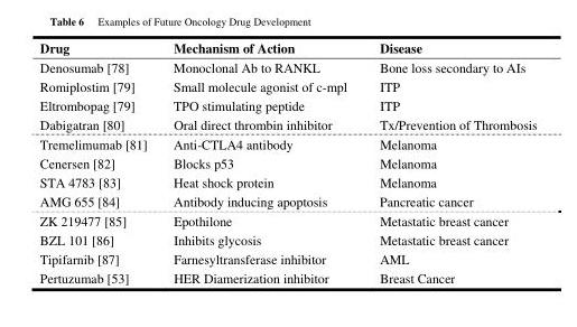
<table><thead><tr><td>Drug</td><td>Mechanism of Action</td><td>Disease</td></tr></thead><tbody><tr><td>Denosumab [78]</td><td>Monoclonal Ab to RANKL</td><td>Bone loss secondary to AIs</td></tr><tr><td>Romiplostim [79]</td><td>Small molecule agonist of c-mpl</td><td>ITP</td></tr><tr><td>Eltrombopag [79]</td><td>TPO stimulating peptide</td><td>ITP</td></tr><tr><td>Dabigatran [80]</td><td>Oral direct thrombin inhibitor</td><td>Tx/Prevention of Thrombosis</td></tr><tr><td>Tremelimumab [81]</td><td>Anti-CTLA4 antibody</td><td>Melanoma</td></tr><tr><td>Cenersen [82]</td><td>Blocks p53</td><td>Melanoma</td></tr><tr><td>STA 4783 [83]</td><td>Heat shock protein</td><td>Melanoma</td></tr><tr><td>AMG 655 [84]</td><td>Antibody inducing apoptosis</td><td>Pancreatic cancer</td></tr><tr><td>ZK 219477 [85]</td><td>Epothilone</td><td>Metastatic breast cancer</td></tr><tr><td>BZL 101 [86]</td><td>Inhibits glycosis</td><td>Metastatic breast cancer</td></tr><tr><td>Tipifarnib [87]</td><td>Farnesyltransferase inhibitor</td><td>AML</td></tr><tr><td>Pertuzumab [53]</td><td>HER Diamerization inhibitor</td><td>Breast Cancer</td></tr></tbody></table>